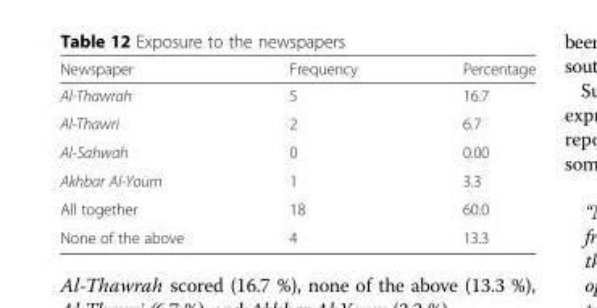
<table><thead><tr><td>Newspaper</td><td>Frequency</td><td>Percentage</td></tr></thead><tbody><tr><td>Al-Thawrah</td><td>5</td><td>16.7</td></tr><tr><td>Al-Thawri</td><td>2</td><td>6.7</td></tr><tr><td>Al-Sahwah</td><td>0</td><td>0.00</td></tr><tr><td>Akhbar Al-Youm</td><td>1</td><td>3.3</td></tr><tr><td>All together</td><td>18</td><td>60.0</td></tr><tr><td>None of the above</td><td>4</td><td>13.3</td></tr></tbody></table>